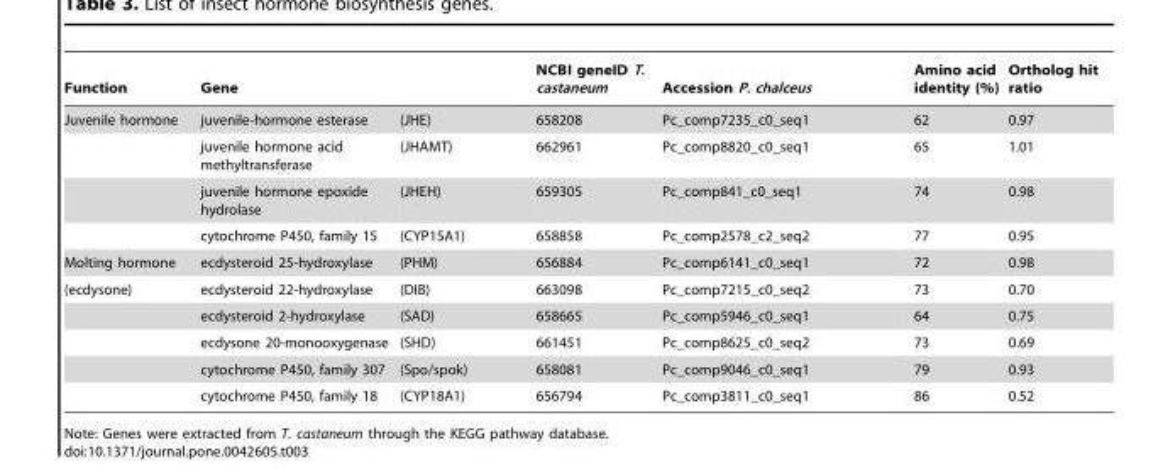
<table><thead><tr><td rowspan="2">Function Juvenile hormone</td><td colspan="2">Gene</td><td rowspan="2">NCBI geneID T. castaneum 658208</td><td rowspan="2">Accession P. chalceus Pc_comp7235_c0_seq1</td><td rowspan="2">Amino acid identity (%) 62</td><td rowspan="2">Ortholog hit ratio 0.97</td></tr><tr><td>juvenile-hormone esterase</td><td>(JHE)</td></tr></thead><tbody><tr><td></td><td>juvenile hormone acid methyltransferase</td><td>(JHAMT)</td><td>662961</td><td>Pc_comp8820_c0_seq1</td><td>65</td><td>1.01</td></tr><tr><td></td><td>juvenile hormone epoxide hydrolase</td><td>(JHEH)</td><td>659305</td><td>Pc_comp841_c0_seq1</td><td>74</td><td>0.98</td></tr><tr><td></td><td>cytochrome P450, family 15</td><td>(CYP15A1)</td><td>658858</td><td>Pc_comp2578_c2_seq2</td><td>77</td><td>0.95</td></tr><tr><td>Molting hormone</td><td>ecdysteroid 25-hydroxylase</td><td>(PHM)</td><td>656884</td><td>Pc_comp6141_c0_seq1</td><td>72</td><td>0.98</td></tr><tr><td rowspan="5">(ecdysone)</td><td>ecdysteroid 22-hydroxylase</td><td>(DIB)</td><td>663098</td><td>Pc_comp7215_c0_seq2</td><td>73</td><td>0.70</td></tr><tr><td>ecdysteroid 2-hydroxylase</td><td>(SAD)</td><td>658665</td><td>Pc_comp5946_c0_seq1</td><td>64</td><td>0.75</td></tr><tr><td>ecdysone 20-monooxygenase</td><td>(SHD)</td><td>661451</td><td>Pc_comp8625_c0_seq2</td><td>73</td><td>0.69</td></tr><tr><td>cytochrome P450, family 307</td><td>(Spo/spok)</td><td>658081</td><td>Pc_comp9046_c0_seq1</td><td>79</td><td>0.93</td></tr><tr><td>cytochrome P450, family 18</td><td>(CYP18A1)</td><td>656794</td><td>Pc_comp3811_c0_seq1</td><td>86</td><td>0.52</td></tr></tbody></table>